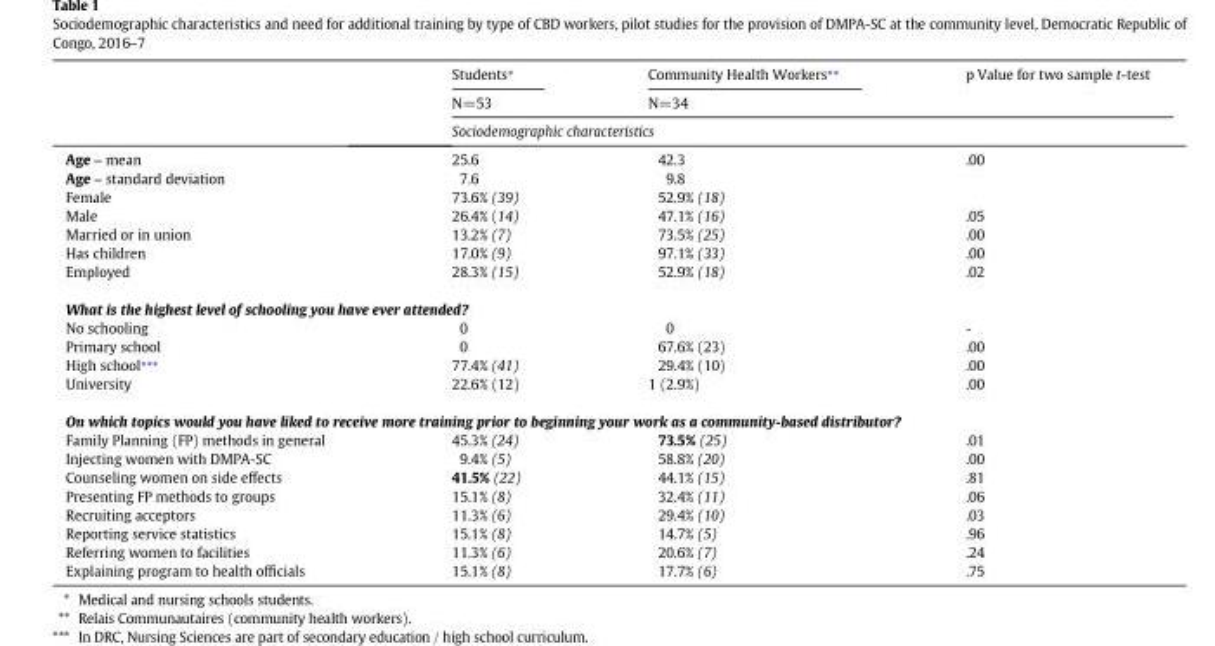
<table><thead><tr><td rowspan="3"></td><td rowspan="2">Students⁎ N=53</td><td rowspan="2">Community Health Workers⁎⁎ N=34</td><td rowspan="2">p Value for two sample t-test</td></tr><tr></tr><tr><td colspan="3">Sociodemographic characteristics</td></tr></thead><tbody><tr><td>Age – mean</td><td>25.6</td><td>42.3</td><td>.00</td></tr><tr><td>Age – standard deviation</td><td>7.6</td><td>9.8</td><td></td></tr><tr><td>Female</td><td>73.6% (39)</td><td>52.9% (18)</td><td></td></tr><tr><td>Male</td><td>26.4% (14)</td><td>47.1% (16)</td><td>.05</td></tr><tr><td>Married or in union</td><td>13.2% (7)</td><td>73.5% (25)</td><td>.00</td></tr><tr><td>Has children</td><td>17.0% (9)</td><td>97.1% (33)</td><td>.00</td></tr><tr><td>Employed</td><td>28.3% (15)</td><td>52.9% (18)</td><td>.02</td></tr><tr><td colspan="4">What is the highest level of schooling you have ever attended?</td></tr><tr><td>No schooling</td><td>0</td><td>0</td><td>-</td></tr><tr><td>Primary school</td><td>0</td><td>67.6% (23)</td><td>.00</td></tr><tr><td>High school⁎⁎⁎</td><td>77.4% (41)</td><td>29.4% (10)</td><td>.00</td></tr><tr><td>University</td><td>22.6% (12)</td><td>1 (2.9%)</td><td>.00</td></tr><tr><td colspan="4">On which topics would you have liked to receive more training prior to beginning your work as a community-based distributor?</td></tr><tr><td>Family Planning (FP) methods in general</td><td>45.3% (24)</td><td>73.5% (25)</td><td>.01</td></tr><tr><td>Injecting women with DMPA-SC</td><td>9.4% (5)</td><td>58.8% (20)</td><td>.00</td></tr><tr><td>Counseling women on side effects</td><td>41.5% (22)</td><td>44.1% (15)</td><td>.81</td></tr><tr><td>Presenting FP methods to groups</td><td>15.1% (8)</td><td>32.4% (11)</td><td>.06</td></tr><tr><td>Recruiting acceptors</td><td>11.3% (6)</td><td>29.4% (10)</td><td>.03</td></tr><tr><td>Reporting service statistics</td><td>15.1% (8)</td><td>14.7% (5)</td><td>.96</td></tr><tr><td>Referring women to facilities</td><td>11.3% (6)</td><td>20.6% (7)</td><td>.24</td></tr><tr><td>Explaining program to health officials</td><td>15.1% (8)</td><td>17.7% (6)</td><td>.75</td></tr></tbody></table>